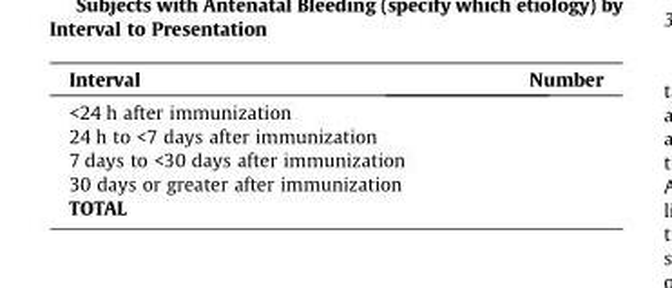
<table><thead><tr><td>Interval</td><td>Number</td></tr></thead><tbody><tr><td colspan="2">&lt;24 h after immunization</td></tr><tr><td colspan="2">24 h to &lt;7 days after immunization</td></tr><tr><td colspan="2">7 days to &lt;30 days after immunization</td></tr><tr><td colspan="2">30 days or greater after immunization</td></tr><tr><td colspan="2">TOTAL</td></tr></tbody></table>